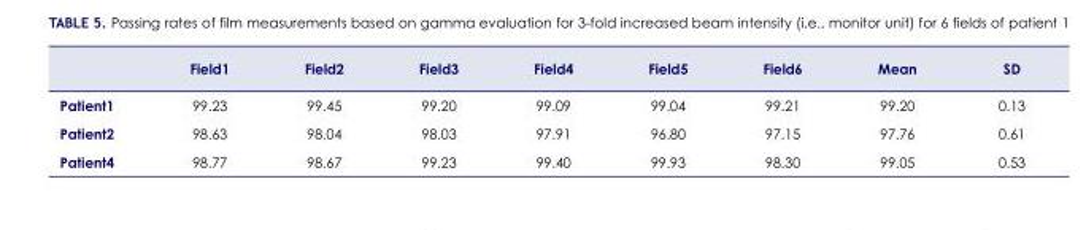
<table><thead><tr><td></td><td>Field1</td><td>Field2</td><td>Field3</td><td>Field4</td><td>Field5</td><td>Field6</td><td>Mean</td><td>SD</td></tr></thead><tbody><tr><td>Patient1</td><td>99.23</td><td>99.45</td><td>99.20</td><td>99.09</td><td>99.04</td><td>99.21</td><td>99.20</td><td>0.13</td></tr><tr><td>Patient2</td><td>98.63</td><td>98.04</td><td>98.03</td><td>97.91</td><td>96.80</td><td>97.15</td><td>97.76</td><td>0.61</td></tr><tr><td>Patient4</td><td>98.77</td><td>98.67</td><td>99.23</td><td>99.40</td><td>99.93</td><td>98.30</td><td>99.05</td><td>0.53</td></tr></tbody></table>